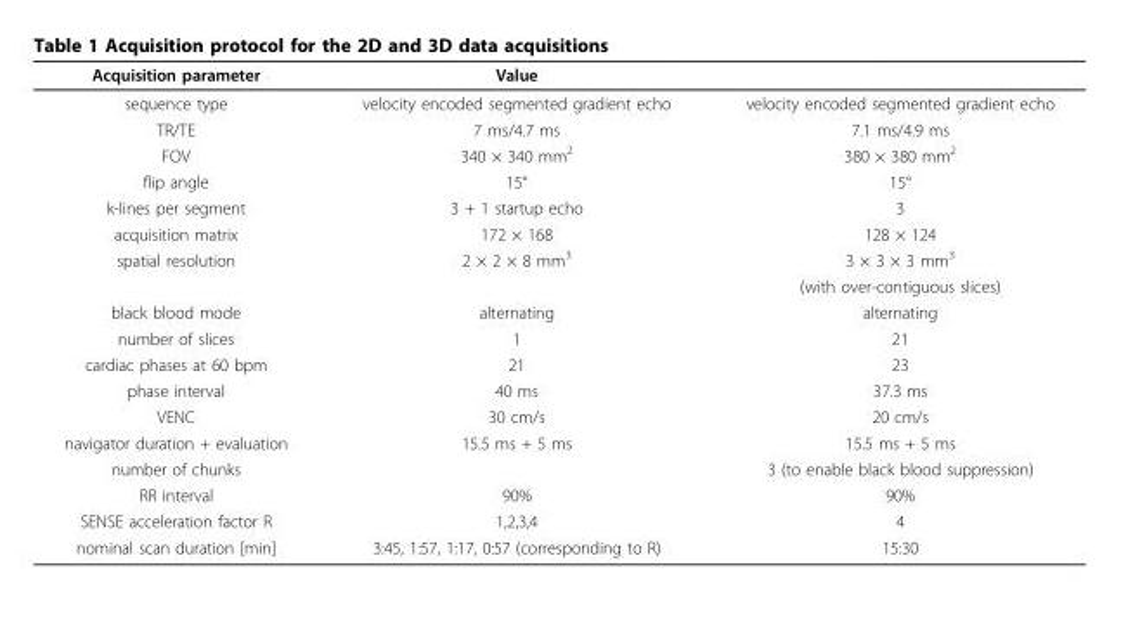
<table><thead><tr><td>Acquisition parameter</td><td>Value</td><td></td></tr></thead><tbody><tr><td>sequence type</td><td>velocity encoded segmented gradient echo</td><td>velocity encoded segmented gradient echo</td></tr><tr><td>TR/TE</td><td>7 ms/4.7 ms</td><td>7.1 ms/4.9 ms</td></tr><tr><td>FOV</td><td>340 × 340 mm<sup>2</sup></td><td>380 × 380 mm<sup>2</sup></td></tr><tr><td>flip angle</td><td>15°</td><td>15°</td></tr><tr><td>k-lines per segment</td><td>3 + 1 startup echo</td><td>3</td></tr><tr><td>acquisition matrix</td><td>172 × 168</td><td>128 × 124</td></tr><tr><td rowspan="2">spatial resolution</td><td>2 × 2 × 8 mm<sup>3</sup></td><td>3 × 3 × 3 mm<sup>3</sup></td></tr><tr><td></td><td>(with over-contiguous slices)</td></tr><tr><td>black blood mode</td><td>alternating</td><td>alternating</td></tr><tr><td>number of slices</td><td>1</td><td>21</td></tr><tr><td>cardiac phases at 60 bpm</td><td>21</td><td>23</td></tr><tr><td>phase interval</td><td>40 ms</td><td>37.3 ms</td></tr><tr><td>VENC</td><td>30 cm/s</td><td>20 cm/s</td></tr><tr><td>navigator duration + evaluation</td><td>15.5 ms + 5 ms</td><td>15.5 ms + 5 ms</td></tr><tr><td>number of chunks</td><td></td><td>3 (to enable black blood suppression)</td></tr><tr><td>RR interval</td><td>90%</td><td>90%</td></tr><tr><td>SENSE acceleration factor R</td><td>1,2,3,4</td><td>4</td></tr><tr><td>nominal scan duration [min]</td><td>3:45, 1:57, 1:17, 0:57 (corresponding to R)</td><td>15:30</td></tr></tbody></table>